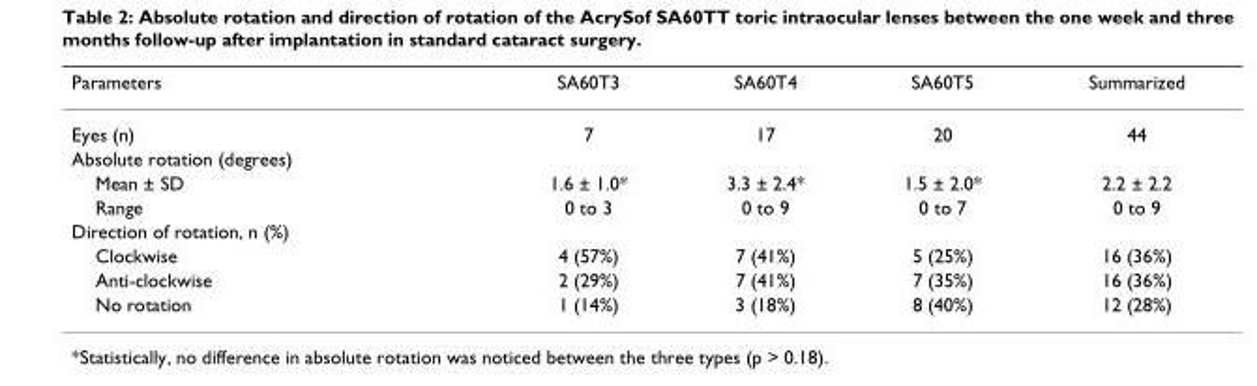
<table><thead><tr><td>Parameters</td><td>SA60T3</td><td>SA60T4</td><td>SA60T5</td><td>Summarized</td></tr></thead><tbody><tr><td>Eyes (n)</td><td>7</td><td>17</td><td>20</td><td>44</td></tr><tr><td colspan="5">Absolute rotation (degrees)</td></tr><tr><td>Mean ± SD</td><td>1.6 ± 1.0*</td><td>3.3 ± 2.4*</td><td>1.5 ± 2.0*</td><td>2.2 ± 2.2</td></tr><tr><td>Range</td><td>0 to 3</td><td>0 to 9</td><td>0 to 7</td><td>0 to 9</td></tr><tr><td colspan="5">Direction of rotation, n (%)</td></tr><tr><td>Clockwise</td><td>4 (57%)</td><td>7 (41%)</td><td>5 (25%)</td><td>16 (36%)</td></tr><tr><td>Anti-clockwise</td><td>2 (29%)</td><td>7 (41%)</td><td>7 (35%)</td><td>16 (36%)</td></tr><tr><td>No rotation</td><td>1 (14%)</td><td>3 (18%)</td><td>8 (40%)</td><td>12 (28%)</td></tr></tbody></table>